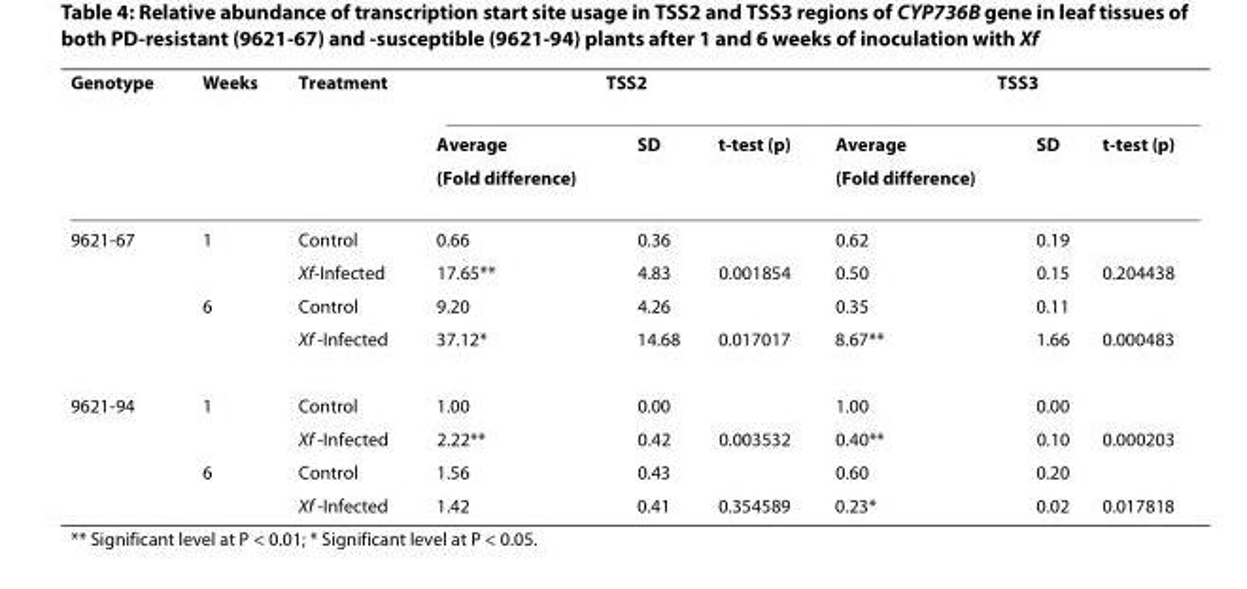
<table><thead><tr><td rowspan="3">Genotype</td><td rowspan="3">Weeks</td><td rowspan="3">Treatment</td><td colspan="3">TSS2</td><td colspan="3">TSS3</td></tr><tr><td rowspan="2">Average (Fold difference)</td><td rowspan="2">SD</td><td rowspan="2">t-test (p)</td><td rowspan="2">Average (Fold difference)</td><td rowspan="2">SD</td><td rowspan="2">t-test (p)</td></tr><tr></tr></thead><tbody><tr><td rowspan="4">9621-67</td><td>1</td><td>Control</td><td>0.66</td><td>0.36</td><td></td><td>0.62</td><td>0.19</td><td></td></tr><tr><td></td><td>Xf-Infected</td><td>17.65**</td><td>4.83</td><td>0.001854</td><td>0.50</td><td>0.15</td><td>0.204438</td></tr><tr><td>6</td><td>Control</td><td>9.20</td><td>4.26</td><td></td><td>0.35</td><td>0.11</td><td></td></tr><tr><td></td><td>Xf -Infected</td><td>37.12*</td><td>14.68</td><td>0.017017</td><td>8.67**</td><td>1.66</td><td>0.000483</td></tr><tr><td rowspan="4">9621-94</td><td>1</td><td>Control</td><td>1.00</td><td>0.00</td><td></td><td>1.00</td><td>0.00</td><td></td></tr><tr><td></td><td>Xf -Infected</td><td>2.22**</td><td>0.42</td><td>0.003532</td><td>0.40**</td><td>0.10</td><td>0.000203</td></tr><tr><td>6</td><td>Control</td><td>1.56</td><td>0.43</td><td></td><td>0.60</td><td>0.20</td><td></td></tr><tr><td></td><td>Xf -Infected</td><td>1.42</td><td>0.41</td><td>0.354589</td><td>0.23*</td><td>0.02</td><td>0.017818</td></tr></tbody></table>